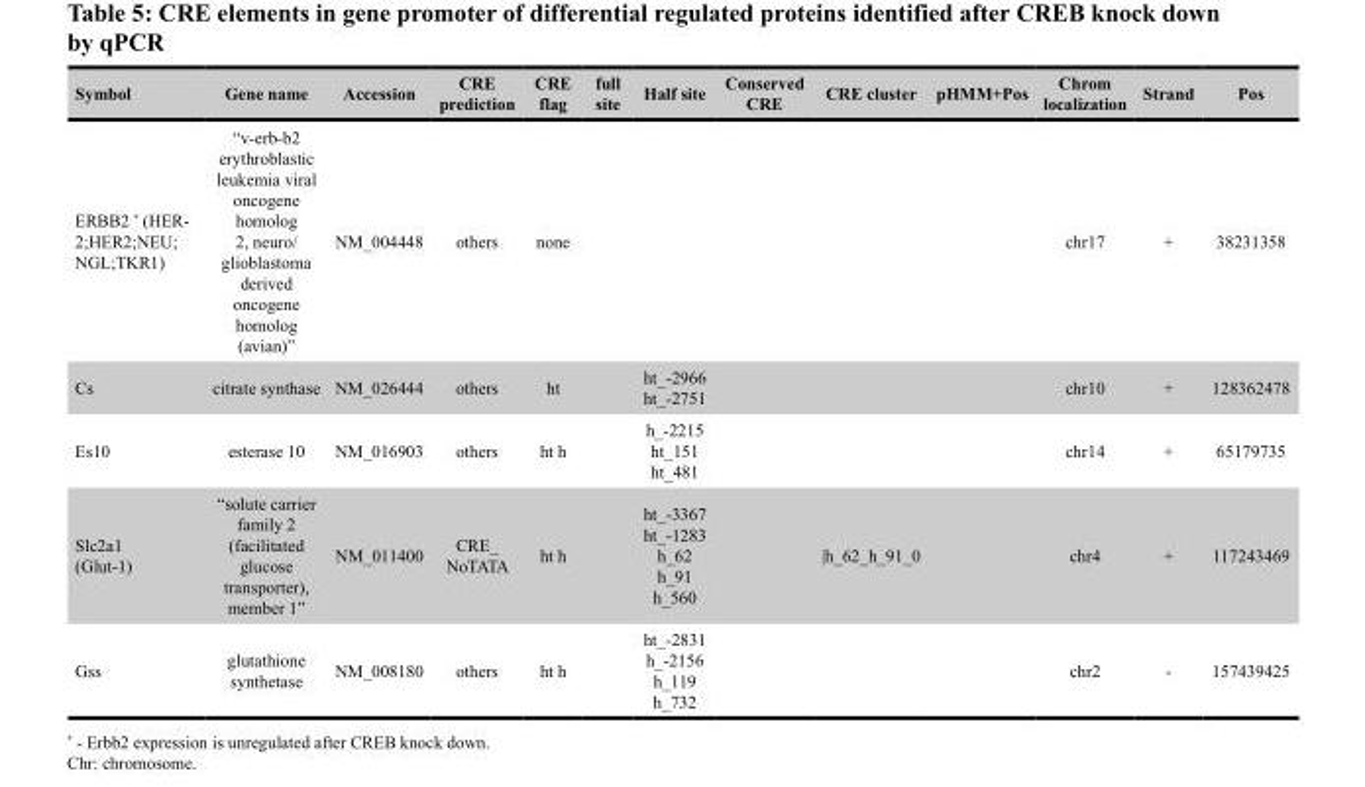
<table><thead><tr><td>Symbol</td><td>Gene name</td><td>Accession</td><td>CRE prediction</td><td>CRE flag</td><td>full site</td><td>Half site</td><td>Conserved CRE</td><td>CRE cluster</td><td>pHMM+Pos</td><td>Chrom localization</td><td>Strand</td><td>Pos</td></tr></thead><tbody><tr><td>ERBB2 * (HER- 2;HER2;NEU; NGL;TKR1)</td><td>“v-erb-b2 erythroblastic leukemia viral oncogene homolog 2, neuro/ glioblastoma derived oncogene homolog (avian)”</td><td>NM_004448</td><td>others</td><td>none</td><td></td><td></td><td></td><td></td><td></td><td>chr17</td><td>+</td><td>38231358</td></tr><tr><td>Cs</td><td>citrate synthase</td><td>NM_026444</td><td>others</td><td>ht</td><td></td><td>ht_-2966 ht_-2751</td><td></td><td></td><td></td><td>chr10</td><td>+</td><td>128362478</td></tr><tr><td>Es10</td><td>esterase 10</td><td>NM_016903</td><td>others</td><td>ht h</td><td></td><td>h_-2215 ht_151 ht_481</td><td></td><td></td><td></td><td>chr14</td><td>+</td><td>65179735</td></tr><tr><td>Slc2a1 (Glut-1)</td><td>“solute carrier family 2 (facilitated glucose transporter), member 1”</td><td>NM_011400</td><td>CRE_ NoTATA</td><td>ht h</td><td></td><td>ht_-3367 ht_-1283 h_62 h_91 h_560</td><td></td><td>|h_62_h_91_0</td><td></td><td>chr4</td><td>+</td><td>117243469</td></tr><tr><td>Gss</td><td>glutathione synthetase</td><td>NM_008180</td><td>others</td><td>ht h</td><td></td><td>ht_-2831 h_-2156 h_119 h_732</td><td></td><td></td><td></td><td>chr2</td><td>-</td><td>157439425</td></tr></tbody></table>